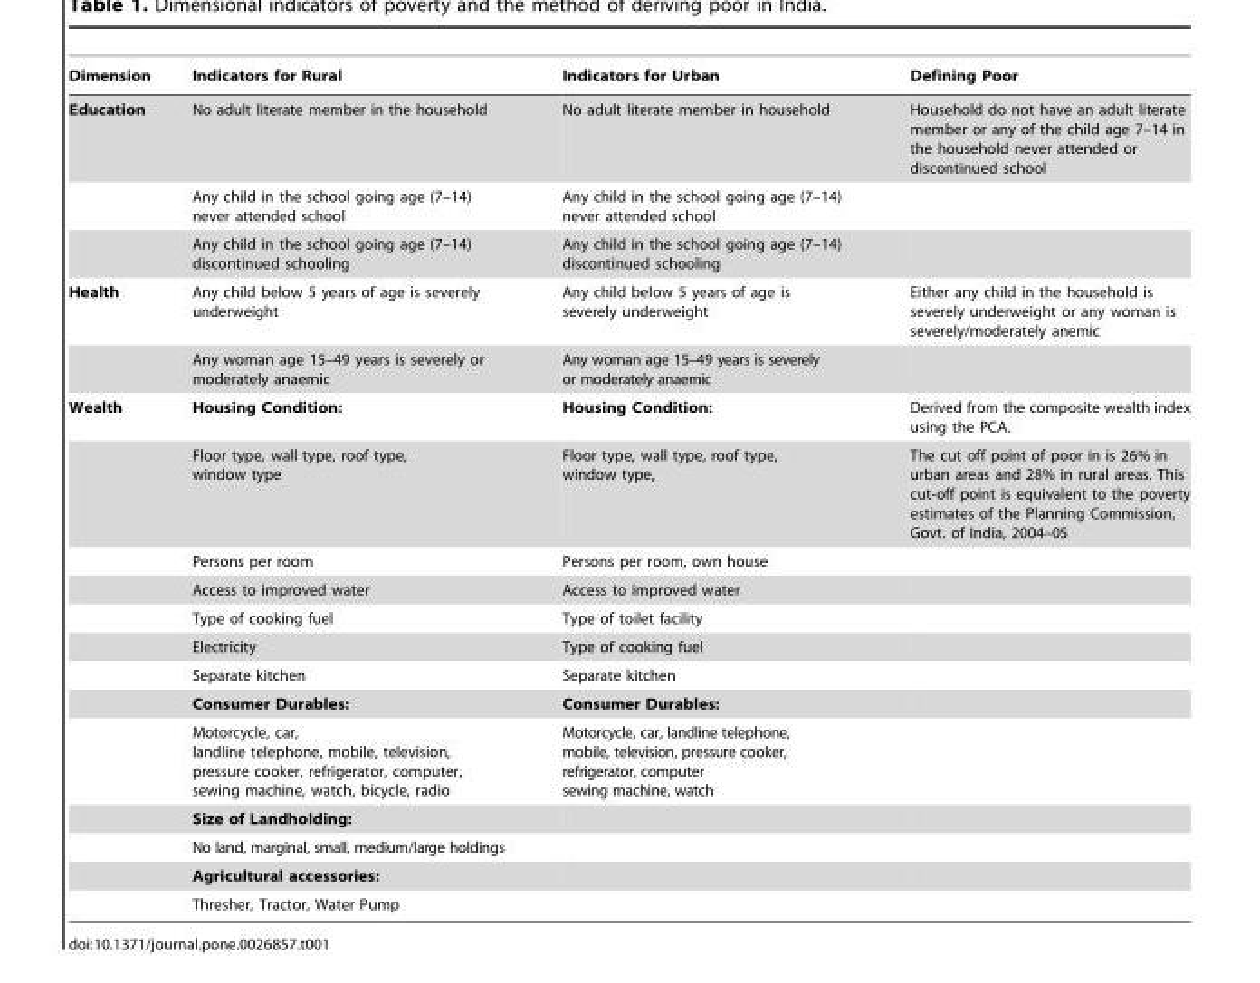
<table><thead><tr><td>Dimension</td><td>Indicators for Rural</td><td>Indicators for Urban</td><td>Defining Poor</td></tr></thead><tbody><tr><td rowspan="3">Education</td><td>No adult literate member in the household</td><td>No adult literate member in household</td><td>Household do not have an adult literate member or any of the child age 7–14 in the household never attended or discontinued school</td></tr><tr><td>Any child in the school going age (7–14) never attended school</td><td>Any child in the school going age (7–14) never attended school</td><td></td></tr><tr><td>Any child in the school going age (7–14) discontinued schooling</td><td>Any child in the school going age (7–14) discontinued schooling</td><td></td></tr><tr><td rowspan="2">Health</td><td>Any child below 5 years of age is severely underweight</td><td>Any child below 5 years of age is severely underweight</td><td>Either any child in the household is severely underweight or any woman is severely/moderately anemic</td></tr><tr><td>Any woman age 15–49 years is severely or moderately anaemic</td><td>Any woman age 15–49 years is severely or moderately anaemic</td><td></td></tr><tr><td rowspan="13">Wealth</td><td>Housing Condition:</td><td>Housing Condition:</td><td>Derived from the composite wealth index using the PCA.</td></tr><tr><td>Floor type, wall type, roof type, window type</td><td>Floor type, wall type, roof type, window type,</td><td>The cut off point of poor in is 26% in urban areas and 28% in rural areas. This cut-off point is equivalent to the poverty estimates of the Planning Commission, Govt. of India, 2004–05</td></tr><tr><td>Persons per room</td><td>Persons per room, own house</td><td></td></tr><tr><td>Access to improved water</td><td>Access to improved water</td><td></td></tr><tr><td>Type of cooking fuel</td><td>Type of toilet facility</td><td></td></tr><tr><td>Electricity</td><td>Type of cooking fuel</td><td></td></tr><tr><td>Separate kitchen</td><td>Separate kitchen</td><td></td></tr><tr><td>Consumer Durables:</td><td>Consumer Durables:</td><td></td></tr><tr><td>Motorcycle, car, landline telephone, mobile, television, pressure cooker, refrigerator, computer, sewing machine, watch, bicycle, radio</td><td>Motorcycle, car, landline telephone, mobile, television, pressure cooker, refrigerator, computer sewing machine, watch</td><td></td></tr><tr><td>Size of Landholding:</td><td></td><td></td></tr><tr><td>No land, marginal, small, medium/large holdings</td><td></td><td></td></tr><tr><td>Agricultural accessories:</td><td></td><td></td></tr><tr><td>Thresher, Tractor, Water Pump</td><td></td><td></td></tr></tbody></table>